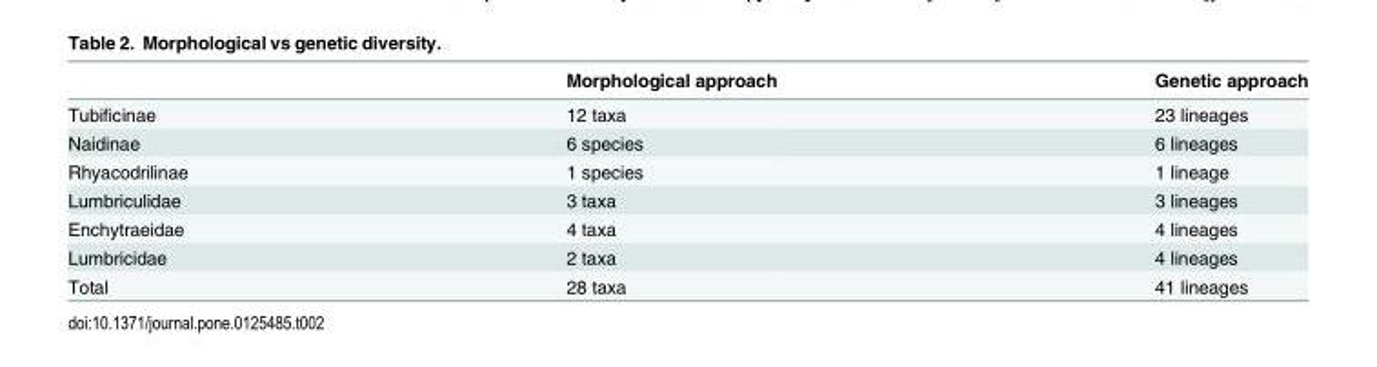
<table><thead><tr><td></td><td>Morphological approach</td><td>Genetic approach</td></tr></thead><tbody><tr><td>Tubificinae</td><td>12 taxa</td><td>23 lineages</td></tr><tr><td>Naidinae</td><td>6 species</td><td>6 lineages</td></tr><tr><td>Rhyacodrilinae</td><td>1 species</td><td>1 lineage</td></tr><tr><td>Lumbriculidae</td><td>3 taxa</td><td>3 lineages</td></tr><tr><td>Enchytraeidae</td><td>4 taxa</td><td>4 lineages</td></tr><tr><td>Lumbricidae</td><td>2 taxa</td><td>4 lineages</td></tr><tr><td>Total</td><td>28 taxa</td><td>41 lineages</td></tr></tbody></table>